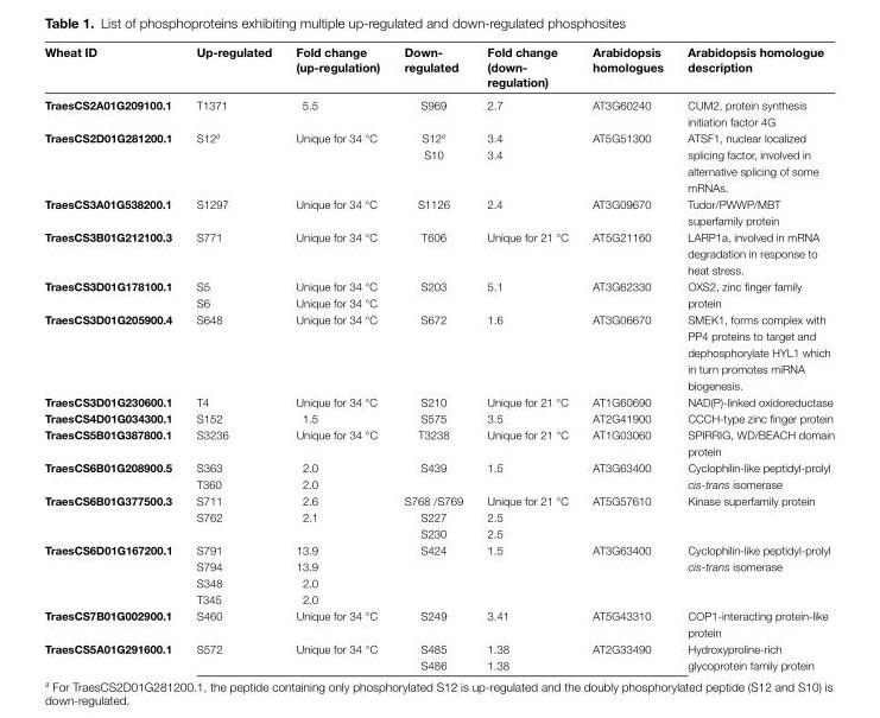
<table><thead><tr><td>Wheat ID</td><td>Up-regulated</td><td>Fold change (up-regulation)</td><td>Down- regulated</td><td>Fold change (down- regulation)</td><td>Arabidopsis homologues</td><td>Arabidopsis homologue description</td></tr></thead><tbody><tr><td>TraesCS2A01G209100.1</td><td>T1371</td><td>5.5</td><td>S969</td><td>2.7</td><td>AT3G60240</td><td>CUM2, protein synthesis initiation factor 4G</td></tr><tr><td rowspan="2">TraesCS2D01G281200.1</td><td>S12<sup>a</sup></td><td>Unique for 34 °C</td><td>S12<sup>a</sup></td><td>3.4</td><td>AT5G51300</td><td rowspan="2">ATSF1, nuclear localized splicing factor, involved in alternative splicing of some mRNAs.</td></tr><tr><td></td><td></td><td>S10</td><td>3.4</td><td></td></tr><tr><td>TraesCS3A01G538200.1</td><td>S1297</td><td>Unique for 34 °C</td><td>S1126</td><td>2.4</td><td>AT3G09670</td><td>Tudor/PWWP/MBT superfamily protein</td></tr><tr><td>TraesCS3B01G212100.3</td><td>S771</td><td>Unique for 34 °C</td><td>T606</td><td>Unique for 21 °C</td><td>AT5G21160</td><td>LARP1a, involved in mRNA degradation in response to heat stress.</td></tr><tr><td rowspan="2">TraesCS3D01G178100.1</td><td>S5</td><td>Unique for 34 °C</td><td>S203</td><td>5.1</td><td rowspan="2">AT3G62330</td><td rowspan="2">OXS2, zinc finger family protein</td></tr><tr><td>S6</td><td>Unique for 34 °C</td><td></td><td></td></tr><tr><td>TraesCS3D01G205900.4</td><td>S648</td><td>Unique for 34 °C</td><td>S672</td><td>1.6</td><td>AT3G06670</td><td>SMEK1, forms complex with PP4 proteins to target and dephosphorylate HYL1 which in turn promotes miRNA biogenesis.</td></tr><tr><td>TraesCS3D01G230600.1</td><td>T4</td><td>Unique for 34 °C</td><td>S210</td><td>Unique for 21 °C</td><td>AT1G60690</td><td>NAD(P)-linked oxidoreductase</td></tr><tr><td>TraesCS4D01G034300.1</td><td>S152</td><td>1.5</td><td>S575</td><td>3.5</td><td>AT2G41900</td><td>CCCH-type zinc finger protein</td></tr><tr><td>TraesCS5B01G387800.1</td><td>S3236</td><td>Unique for 34 °C</td><td>T3238</td><td>Unique for 21 °C</td><td>AT1G03060</td><td>SPIRRIG, WD/BEACH domain protein</td></tr><tr><td rowspan="2">TraesCS6B01G208900.5</td><td>S363</td><td>2.0</td><td>S439</td><td>1.5</td><td rowspan="2">AT3G63400</td><td rowspan="2">Cyclophilin-like peptidyl-prolyl cis-trans isomerase</td></tr><tr><td>T360</td><td>2.0</td><td></td><td></td></tr><tr><td rowspan="3">TraesCS6B01G377500.3</td><td>S711</td><td>2.6</td><td>S768 /S769</td><td>Unique for 21 °C</td><td rowspan="3">AT5G57610</td><td rowspan="3">Kinase superfamily protein</td></tr><tr><td>S762</td><td>2.1</td><td>S227</td><td>2.5</td></tr><tr><td></td><td></td><td>S230</td><td>2.5</td></tr><tr><td rowspan="4">TraesCS6D01G167200.1</td><td>S791</td><td>13.9</td><td>S424</td><td>1.5</td><td>AT3G63400</td><td rowspan="4">Cyclophilin-like peptidyl-prolyl cis-trans isomerase</td></tr><tr><td>S794</td><td>13.9</td><td></td><td></td><td></td></tr><tr><td>S348</td><td>2.0</td><td></td><td></td><td></td></tr><tr><td>T345</td><td>2.0</td><td></td><td></td><td></td></tr><tr><td>TraesCS7B01G002900.1</td><td>S460</td><td>Unique for 34 °C</td><td>S249</td><td>3.41</td><td>AT5G43310</td><td>COP1-interacting protein-like protein</td></tr><tr><td rowspan="2">TraesCS5A01G291600.1</td><td>S572</td><td>Unique for 34 °C</td><td>S485</td><td>1.38</td><td>AT2G33490</td><td rowspan="2">Hydroxyproline-rich glycoprotein family protein</td></tr><tr><td></td><td></td><td>S486</td><td>1.38</td><td></td></tr></tbody></table>